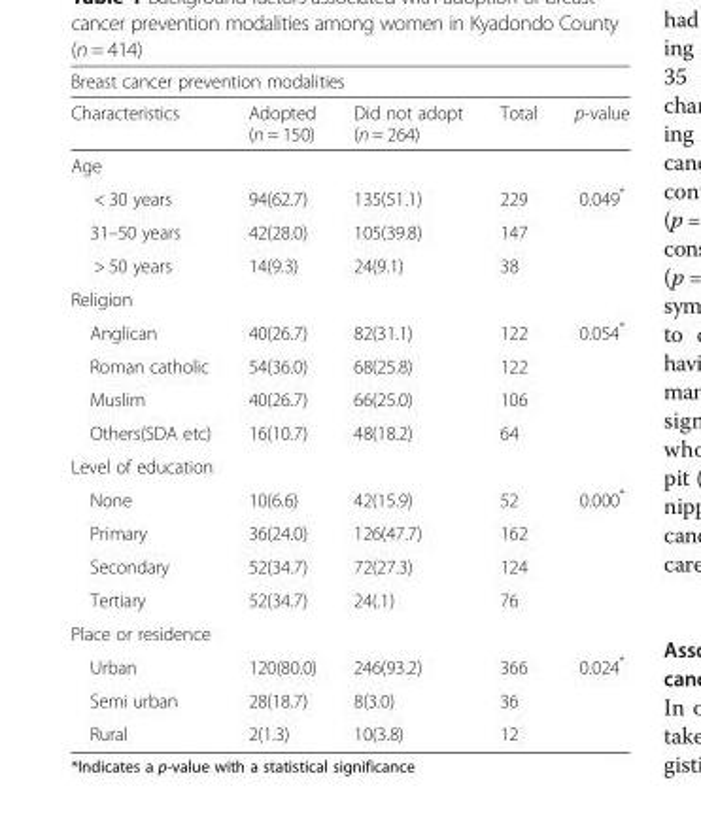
<table><thead><tr><td colspan="5">Breast cancer prevention modalities</td></tr><tr><td>Characteristics</td><td>Adopted (n = 150)</td><td>Did not adopt (n = 264)</td><td>Total</td><td>p-value</td></tr></thead><tbody><tr><td colspan="5">Age</td></tr><tr><td>&lt; 30 years</td><td>94(62.7)</td><td>135(51.1)</td><td>229</td><td>0.049*</td></tr><tr><td>31–50 years</td><td>42(28.0)</td><td>105(39.8)</td><td>147</td><td></td></tr><tr><td>&gt; 50 years</td><td>14(9.3)</td><td>24(9.1)</td><td>38</td><td></td></tr><tr><td colspan="5">Religion</td></tr><tr><td>Anglican</td><td>40(26.7)</td><td>82(31.1)</td><td>122</td><td>0.054*</td></tr><tr><td>Roman catholic</td><td>54(36.0)</td><td>68(25.8)</td><td>122</td><td></td></tr><tr><td>Muslim</td><td>40(26.7)</td><td>66(25.0)</td><td>106</td><td></td></tr><tr><td>Others(SDA etc)</td><td>16(10.7)</td><td>48(18.2)</td><td>64</td><td></td></tr><tr><td colspan="5">Level of education</td></tr><tr><td>None</td><td>10(6.6)</td><td>42(15.9)</td><td>52</td><td>0.000*</td></tr><tr><td>Primary</td><td>36(24.0)</td><td>126(47.7)</td><td>162</td><td></td></tr><tr><td>Secondary</td><td>52(34.7)</td><td>72(27.3)</td><td>124</td><td></td></tr><tr><td>Tertiary</td><td>52(34.7)</td><td>24(.1)</td><td>76</td><td></td></tr><tr><td colspan="5">Place or residence</td></tr><tr><td>Urban</td><td>120(80.0)</td><td>246(93.2)</td><td>366</td><td>0.024*</td></tr><tr><td>Semi urban</td><td>28(18.7)</td><td>8(3.0)</td><td>36</td><td></td></tr><tr><td>Rural</td><td>2(1.3)</td><td>10(3.8)</td><td>12</td><td></td></tr></tbody></table>